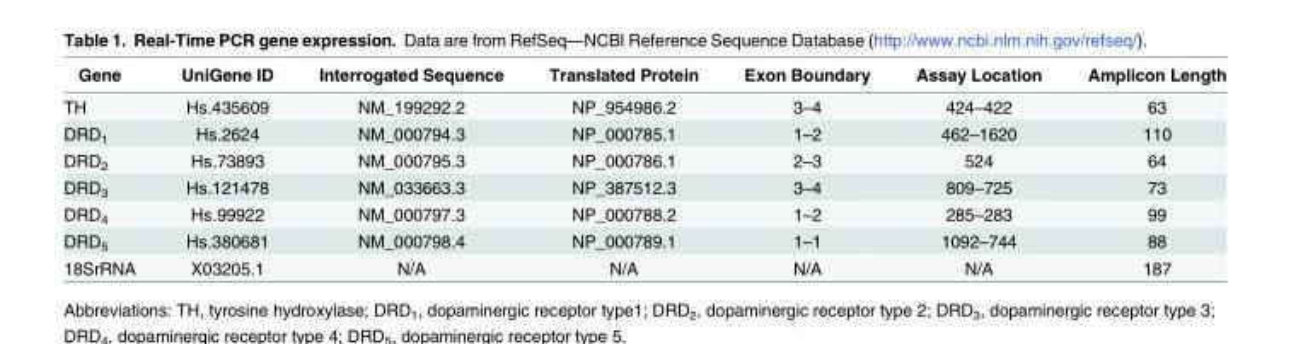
<table><thead><tr><td>Gene</td><td>UniGene ID</td><td>Interrogated Sequence</td><td>Translated Protein</td><td>Exon Boundary</td><td>Assay Location</td><td>Amplicon Length</td></tr></thead><tbody><tr><td>TH</td><td>Hs.435609</td><td>NM_199292.2</td><td>NP_954986.2</td><td>3–4</td><td>424–422</td><td>63</td></tr><tr><td>DRD<sub>1</sub></td><td>Hs.2624</td><td>NM_000794.3</td><td>NP_000785.1</td><td>1–2</td><td>462–1620</td><td>110</td></tr><tr><td>DRD<sub>2</sub></td><td>Hs.73893</td><td>NM_000795.3</td><td>NP_000786.1</td><td>2–3</td><td>524</td><td>64</td></tr><tr><td>DRD<sub>3</sub></td><td>Hs.121478</td><td>NM_033663.3</td><td>NP_387512.3</td><td>3–4</td><td>809–725</td><td>73</td></tr><tr><td>DRD<sub>4</sub></td><td>Hs.99922</td><td>NM_000797.3</td><td>NP_000788.2</td><td>1–2</td><td>285–283</td><td>99</td></tr><tr><td>DRD<sub>5</sub></td><td>Hs.380681</td><td>NM_000798.4</td><td>NP_000789.1</td><td>1–1</td><td>1092–744</td><td>88</td></tr><tr><td>18SrRNA</td><td>X03205.1</td><td>N/A</td><td>N/A</td><td>N/A</td><td>N/A</td><td>187</td></tr></tbody></table>